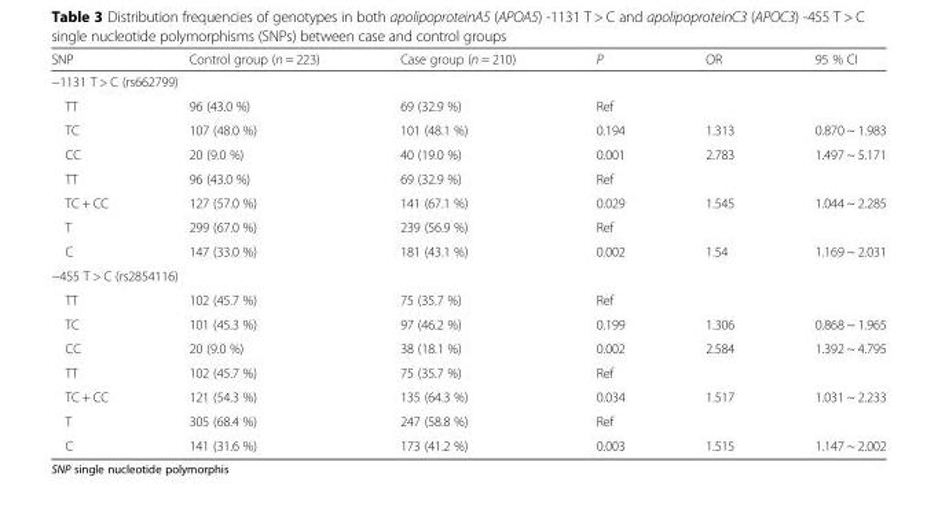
<table><thead><tr><td>SNP</td><td>Control group (n = 223)</td><td>Case group (n = 210)</td><td>P</td><td>OR</td><td>95 % CI</td></tr></thead><tbody><tr><td colspan="6">−1131 T &gt; C (rs662799)</td></tr><tr><td>TT</td><td>96 (43.0 %)</td><td>69 (32.9 %)</td><td>Ref</td><td></td><td></td></tr><tr><td>TC</td><td>107 (48.0 %)</td><td>101 (48.1 %)</td><td>0.194</td><td>1.313</td><td>0.870 ~ 1.983</td></tr><tr><td>CC</td><td>20 (9.0 %)</td><td>40 (19.0 %)</td><td>0.001</td><td>2.783</td><td>1.497 ~ 5.171</td></tr><tr><td>TT</td><td>96 (43.0 %)</td><td>69 (32.9 %)</td><td>Ref</td><td></td><td></td></tr><tr><td>TC + CC</td><td>127 (57.0 %)</td><td>141 (67.1 %)</td><td>0.029</td><td>1.545</td><td>1.044 ~ 2.285</td></tr><tr><td>T</td><td>299 (67.0 %)</td><td>239 (56.9 %)</td><td>Ref</td><td></td><td></td></tr><tr><td>C</td><td>147 (33.0 %)</td><td>181 (43.1 %)</td><td>0.002</td><td>1.54</td><td>1.169 ~ 2.031</td></tr><tr><td colspan="6">−455 T &gt; C (rs2854116)</td></tr><tr><td>TT</td><td>102 (45.7 %)</td><td>75 (35.7 %)</td><td>Ref</td><td></td><td></td></tr><tr><td>TC</td><td>101 (45.3 %)</td><td>97 (46.2 %)</td><td>0.199</td><td>1.306</td><td>0.868 ~ 1.965</td></tr><tr><td>CC</td><td>20 (9.0 %)</td><td>38 (18.1 %)</td><td>0.002</td><td>2.584</td><td>1.392 ~ 4.795</td></tr><tr><td>TT</td><td>102 (45.7 %)</td><td>75 (35.7 %)</td><td>Ref</td><td></td><td></td></tr><tr><td>TC + CC</td><td>121 (54.3 %)</td><td>135 (64.3 %)</td><td>0.034</td><td>1.517</td><td>1.031 ~ 2.233</td></tr><tr><td>T</td><td>305 (68.4 %)</td><td>247 (58.8 %)</td><td>Ref</td><td></td><td></td></tr><tr><td>C</td><td>141 (31.6 %)</td><td>173 (41.2 %)</td><td>0.003</td><td>1.515</td><td>1.147 ~ 2.002</td></tr></tbody></table>